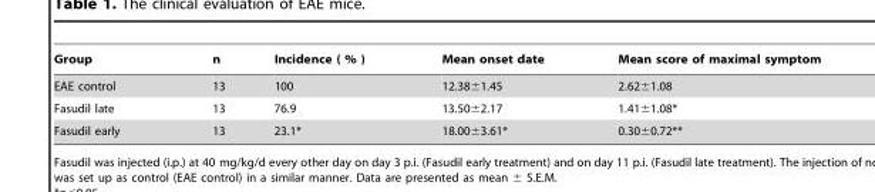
<table><thead><tr><td>Group</td><td>n</td><td>Incidence ( % )</td><td>Mean onset date</td><td>Mean score of maximal symptom</td></tr></thead><tbody><tr><td>EAE control</td><td>13</td><td>100</td><td>12.38±1.45</td><td>2.62±1.08</td></tr><tr><td>Fasudil late</td><td>13</td><td>76.9</td><td>13.50±2.17</td><td>1.41±1.08*</td></tr><tr><td>Fasudil early</td><td>13</td><td>23.1*</td><td>18.00±3.61*</td><td>0.30±0.72**</td></tr></tbody></table>